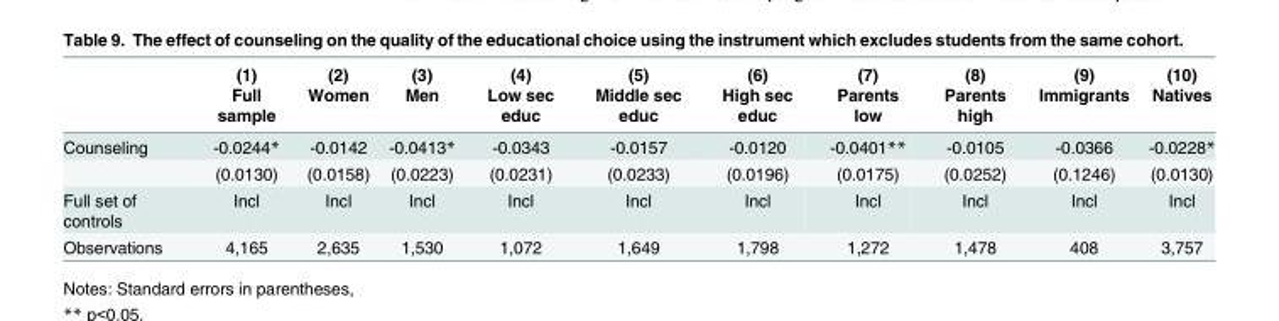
<table><thead><tr><td rowspan="2"></td><td rowspan="2">(1) Full sample</td><td rowspan="2">(2) Women</td><td rowspan="2">(3) Men</td><td rowspan="2">(4) Low sec educ</td><td rowspan="2">(5) Middle sec educ</td><td rowspan="2">(6) High sec educ</td><td rowspan="2">(7) Parents low</td><td rowspan="2">(8) Parents high</td><td rowspan="2">(9) Immigrants</td><td rowspan="2">(10) Natives</td></tr><tr></tr></thead><tbody><tr><td rowspan="2">Counseling</td><td>-0.0244*</td><td>-0.0142</td><td>-0.0413*</td><td>-0.0343</td><td>-0.0157</td><td>-0.0120</td><td>-0.0401**</td><td>-0.0105</td><td>-0.0366</td><td>-0.0228*</td></tr><tr><td>(0.0130)</td><td>(0.0158)</td><td>(0.0223)</td><td>(0.0231)</td><td>(0.0233)</td><td>(0.0196)</td><td>(0.0175)</td><td>(0.0252)</td><td>(0.1246)</td><td>(0.0130)</td></tr><tr><td>Full set of controls</td><td>Incl</td><td>Incl</td><td>Incl</td><td>Incl</td><td>Incl</td><td>Incl</td><td>Incl</td><td>Incl</td><td>Incl</td><td>Incl</td></tr><tr><td>Observations</td><td>4,165</td><td>2,635</td><td>1,530</td><td>1,072</td><td>1,649</td><td>1,798</td><td>1,272</td><td>1,478</td><td>408</td><td>3,757</td></tr></tbody></table>